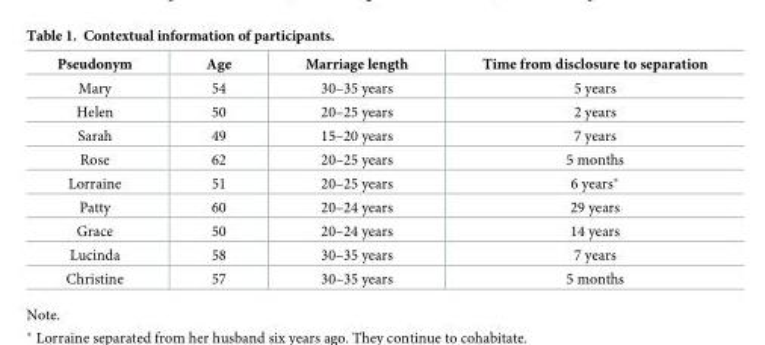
<table><thead><tr><td>Pseudonym</td><td>Age</td><td>Marriage length</td><td>Time from disclosure to separation</td></tr></thead><tbody><tr><td>Mary</td><td>54</td><td>30–35 years</td><td>5 years</td></tr><tr><td>Helen</td><td>50</td><td>20–25 years</td><td>2 years</td></tr><tr><td>Sarah</td><td>49</td><td>15–20 years</td><td>7 years</td></tr><tr><td>Rose</td><td>62</td><td>20–25 years</td><td>5 months</td></tr><tr><td>Lorraine</td><td>51</td><td>20–25 years</td><td>6 years*</td></tr><tr><td>Patty</td><td>60</td><td>20–24 years</td><td>29 years</td></tr><tr><td>Grace</td><td>50</td><td>20–24 years</td><td>14 years</td></tr><tr><td>Lucinda</td><td>58</td><td>30–35 years</td><td>7 years</td></tr><tr><td>Christine</td><td>57</td><td>30–35 years</td><td>5 months</td></tr></tbody></table>